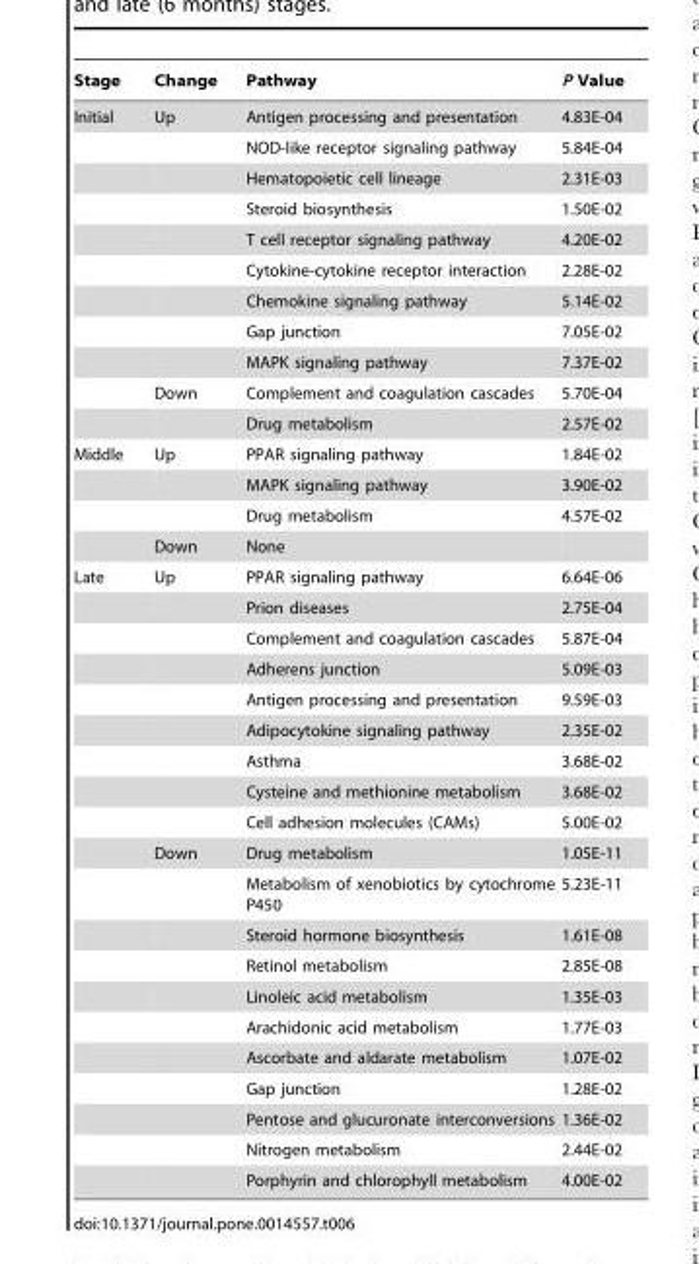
<table><thead><tr><td>Stage</td><td>Change</td><td>Pathway</td><td>P Value</td></tr></thead><tbody><tr><td rowspan="11">Initial</td><td>Up</td><td>Antigen processing and presentation</td><td>4.83E-04</td></tr><tr><td></td><td>NOD-like receptor signaling pathway</td><td>5.84E-04</td></tr><tr><td></td><td>Hematopoietic cell lineage</td><td>2.31E-03</td></tr><tr><td></td><td>Steroid biosynthesis</td><td>1.50E-02</td></tr><tr><td></td><td>T cell receptor signaling pathway</td><td>4.20E-02</td></tr><tr><td></td><td>Cytokine-cytokine receptor interaction</td><td>2.28E-02</td></tr><tr><td></td><td>Chemokine signaling pathway</td><td>5.14E-02</td></tr><tr><td></td><td>Gap junction</td><td>7.05E-02</td></tr><tr><td></td><td>MAPK signaling pathway</td><td>7.37E-02</td></tr><tr><td>Down</td><td>Complement and coagulation cascades</td><td>5.70E-04</td></tr><tr><td></td><td>Drug metabolism</td><td>2.57E-02</td></tr><tr><td rowspan="4">Middle</td><td>Up</td><td>PPAR signaling pathway</td><td>1.84E-02</td></tr><tr><td></td><td>MAPK signaling pathway</td><td>3.90E-02</td></tr><tr><td></td><td>Drug metabolism</td><td>4.57E-02</td></tr><tr><td>Down</td><td>None</td><td></td></tr><tr><td rowspan="20">Late</td><td>Up</td><td>PPAR signaling pathway</td><td>6.64E-06</td></tr><tr><td></td><td>Prion diseases</td><td>2.75E-04</td></tr><tr><td></td><td>Complement and coagulation cascades</td><td>5.87E-04</td></tr><tr><td></td><td>Adherens junction</td><td>5.09E-03</td></tr><tr><td></td><td>Antigen processing and presentation</td><td>9.59E-03</td></tr><tr><td></td><td>Adipocytokine signaling pathway</td><td>2.35E-02</td></tr><tr><td></td><td>Asthma</td><td>3.68E-02</td></tr><tr><td></td><td>Cysteine and methionine metabolism</td><td>3.68E-02</td></tr><tr><td></td><td>Cell adhesion molecules (CAMs)</td><td>5.00E-02</td></tr><tr><td>Down</td><td>Drug metabolism</td><td>1.05E-11</td></tr><tr><td></td><td>Metabolism of xenobiotics by cytochrome P450</td><td>5.23E-11</td></tr><tr><td></td><td>Steroid hormone biosynthesis</td><td>1.61E-08</td></tr><tr><td></td><td>Retinol metabolism</td><td>2.85E-08</td></tr><tr><td></td><td>Linoleic acid metabolism</td><td>1.35E-03</td></tr><tr><td></td><td>Arachidonic acid metabolism</td><td>1.77E-03</td></tr><tr><td></td><td>Ascorbate and aldarate metabolism</td><td>1.07E-02</td></tr><tr><td></td><td>Gap junction</td><td>1.28E-02</td></tr><tr><td></td><td>Pentose and glucuronate interconversions</td><td>1.36E-02</td></tr><tr><td></td><td>Nitrogen metabolism</td><td>2.44E-02</td></tr><tr><td></td><td>Porphyrin and chlorophyll metabolism</td><td>4.00E-02</td></tr></tbody></table>